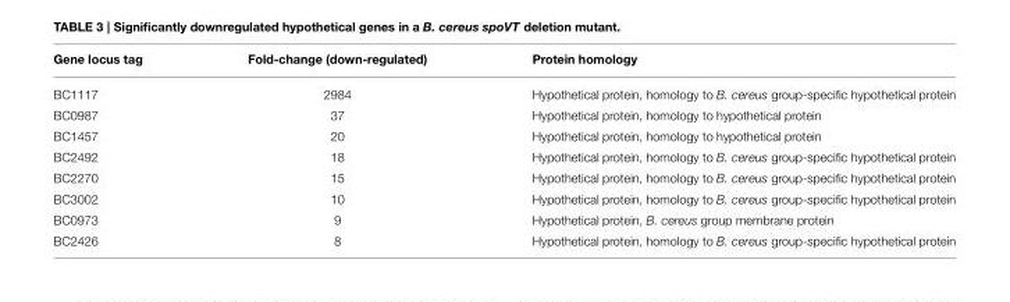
<table><thead><tr><td>Gene locus tag</td><td>Fold-change (down-regulated)</td><td>Protein homology</td></tr></thead><tbody><tr><td>BC1117</td><td>2984</td><td>Hypothetical protein, homology to B. cereus group-specific hypothetical protein</td></tr><tr><td>BC0987</td><td>37</td><td>Hypothetical protein, homology to hypothetical protein</td></tr><tr><td>BC1457</td><td>20</td><td>Hypothetical protein, homology to hypothetical protein</td></tr><tr><td>BC2492</td><td>18</td><td>Hypothetical protein, homology to B. cereus group-specific hypothetical protein</td></tr><tr><td>BC2270</td><td>15</td><td>Hypothetical protein, homology to B. cereus group-specific hypothetical protein</td></tr><tr><td>BC3002</td><td>10</td><td>Hypothetical protein, homology to B. cereus group-specific hypothetical protein</td></tr><tr><td>BC0973</td><td>9</td><td>Hypothetical protein, B. cereus group membrane protein</td></tr><tr><td>BC2426</td><td>8</td><td>Hypothetical protein, homology to B. cereus group-specific hypothetical protein</td></tr></tbody></table>